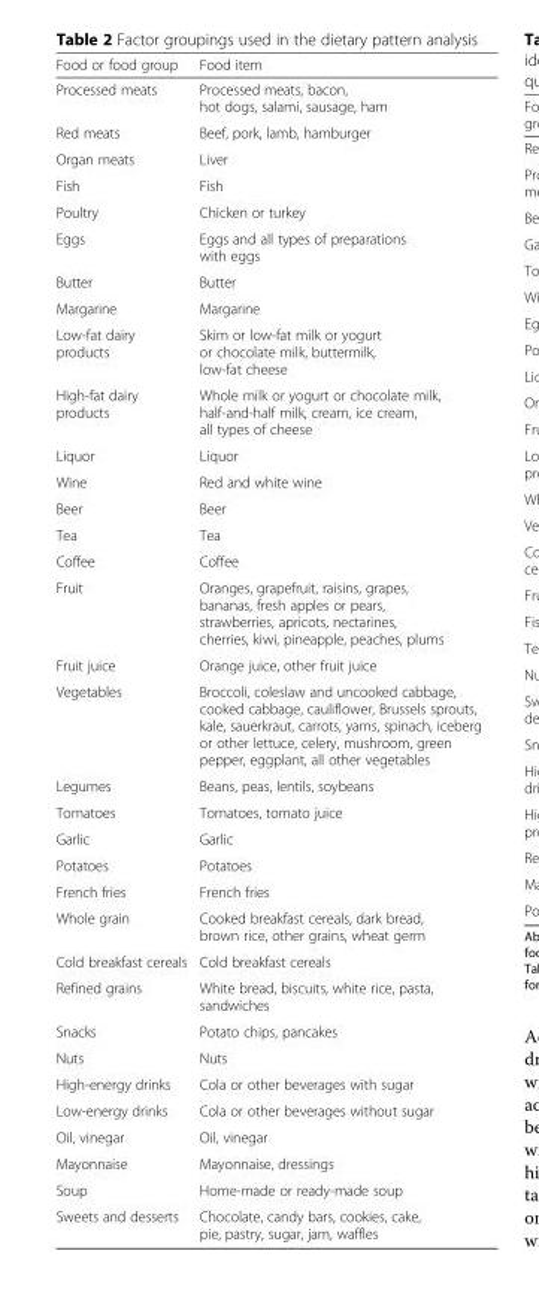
<table><thead><tr><td>Food or food group</td><td>Food item</td></tr></thead><tbody><tr><td>Processed meats</td><td>Processed meats, bacon, hot dogs, salami, sausage, ham</td></tr><tr><td>Red meats</td><td>Beef, pork, lamb, hamburger</td></tr><tr><td>Organ meats</td><td>Liver</td></tr><tr><td>Fish</td><td>Fish</td></tr><tr><td>Poultry</td><td>Chicken or turkey</td></tr><tr><td>Eggs</td><td>Eggs and all types of preparations with eggs</td></tr><tr><td>Butter</td><td>Butter</td></tr><tr><td>Margarine</td><td>Margarine</td></tr><tr><td>Low-fat dairy products</td><td>Skim or low-fat milk or yogurt or chocolate milk, buttermilk, low-fat cheese</td></tr><tr><td>High-fat dairy products</td><td>Whole milk or yogurt or chocolate milk, half-and-half milk, cream, ice cream, all types of cheese</td></tr><tr><td>Liquor</td><td>Liquor</td></tr><tr><td>Wine</td><td>Red and white wine</td></tr><tr><td>Beer</td><td>Beer</td></tr><tr><td>Tea</td><td>Tea</td></tr><tr><td>Coffee</td><td>Coffee</td></tr><tr><td>Fruit</td><td>Oranges, grapefruit, raisins, grapes, bananas, fresh apples or pears, strawberries, apricots, nectarines, cherries, kiwi, pineapple, peaches, plums</td></tr><tr><td>Fruit juice</td><td>Orange juice, other fruit juice</td></tr><tr><td>Vegetables</td><td>Broccoli, coleslaw and uncooked cabbage, cooked cabbage, cauliflower, Brussels sprouts, kale, sauerkraut, carrots, yams, spinach, iceberg or other lettuce, celery, mushroom, green pepper, eggplant, all other vegetables</td></tr><tr><td>Legumes</td><td>Beans, peas, lentils, soybeans</td></tr><tr><td>Tomatoes</td><td>Tomatoes, tomato juice</td></tr><tr><td>Garlic</td><td>Garlic</td></tr><tr><td>Potatoes</td><td>Potatoes</td></tr><tr><td>French fries</td><td>French fries</td></tr><tr><td>Whole grain</td><td>Cooked breakfast cereals, dark bread, brown rice, other grains, wheat germ</td></tr><tr><td>Cold breakfast cereals</td><td>Cold breakfast cereals</td></tr><tr><td>Refined grains</td><td>White bread, biscuits, white rice, pasta, sandwiches</td></tr><tr><td>Snacks</td><td>Potato chips, pancakes</td></tr><tr><td>Nuts</td><td>Nuts</td></tr><tr><td>High-energy drinks</td><td>Cola or other beverages with sugar</td></tr><tr><td>Low-energy drinks</td><td>Cola or other beverages without sugar</td></tr><tr><td>Oil, vinegar</td><td>Oil, vinegar</td></tr><tr><td>Mayonnaise</td><td>Mayonnaise, dressings</td></tr><tr><td>Soup</td><td>Home-made or ready-made soup</td></tr><tr><td>Sweets and desserts</td><td>Chocolate, candy bars, cookies, cake, pie, pastry, sugar, jam, waffles</td></tr></tbody></table>